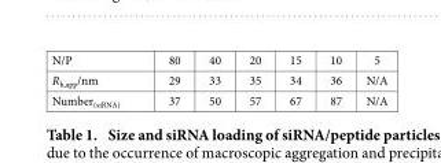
<table><tbody><tr><td>N/P</td><td>80</td><td>40</td><td>20</td><td>15</td><td>10</td><td>5</td></tr><tr><td>R<sub>h,app</sub>/nm</td><td>29</td><td>33</td><td>35</td><td>34</td><td>36</td><td>N/A</td></tr><tr><td>Number<sub>(siRNA)</sub></td><td>37</td><td>50</td><td>57</td><td>67</td><td>87</td><td>N/A</td></tr></tbody></table>